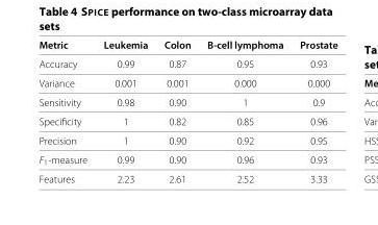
<table><thead><tr><td>Metric</td><td>Leukemia</td><td>Colon</td><td>B-cell lymphoma</td><td>Prostate</td></tr></thead><tbody><tr><td>Accuracy</td><td>0.99</td><td>0.87</td><td>0.95</td><td>0.93</td></tr><tr><td>Variance</td><td>0.001</td><td>0.001</td><td>0.000</td><td>0.000</td></tr><tr><td>Sensitivity</td><td>0.98</td><td>0.90</td><td>1</td><td>0.9</td></tr><tr><td>Specificity</td><td>1</td><td>0.82</td><td>0.85</td><td>0.96</td></tr><tr><td>Precision</td><td>1</td><td>0.90</td><td>0.92</td><td>0.95</td></tr><tr><td><sub>F1</sub>-measure</td><td>0.99</td><td>0.90</td><td>0.96</td><td>0.93</td></tr><tr><td>Features</td><td>2.23</td><td>2.61</td><td>2.52</td><td>3.33</td></tr></tbody></table>